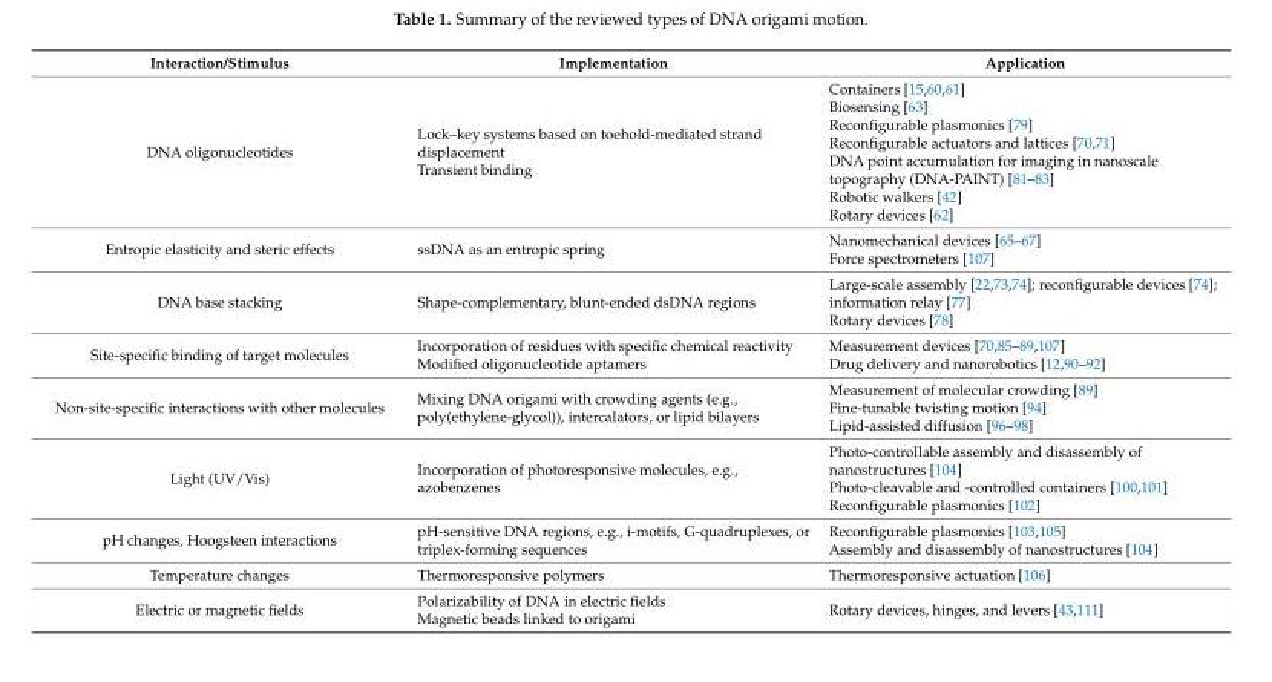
<table><thead><tr><td>Interaction/Stimulus</td><td>Implementation</td><td>Application</td></tr></thead><tbody><tr><td>DNA oligonucleotides</td><td>Lock–key systems based on toehold-mediated strand displacement Transient binding</td><td>Containers [15,60,61] Biosensing [63] Reconfigurable plasmonics [79] Reconfigurable actuators and lattices [70,71] DNA point accumulation for imaging in nanoscale topography (DNA-PAINT) [81–83] Robotic walkers [42] Rotary devices [62]</td></tr><tr><td>Entropic elasticity and steric effects</td><td>ssDNA as an entropic spring</td><td>Nanomechanical devices [65–67] Force spectrometers [107]</td></tr><tr><td>DNA base stacking</td><td>Shape-complementary, blunt-ended dsDNA regions</td><td>Large-scale assembly [22,73,74]; reconfigurable devices [74]; information relay [77] Rotary devices [78]</td></tr><tr><td>Site-specific binding of target molecules</td><td>Incorporation of residues with specific chemical reactivity Modified oligonucleotide aptamers</td><td>Measurement devices [70,85–89,107] Drug delivery and nanorobotics [12,90–92]</td></tr><tr><td>Non-site-specific interactions with other molecules</td><td>Mixing DNA origami with crowding agents (e.g., poly(ethylene-glycol)), intercalators, or lipid bilayers</td><td>Measurement of molecular crowding [89] Fine-tunable twisting motion [94] Lipid-assisted diffusion [96–98]</td></tr><tr><td>Light (UV/Vis)</td><td>Incorporation of photoresponsive molecules, e.g., azobenzenes</td><td>Photo-controllable assembly and disassembly of nanostructures [104] Photo-cleavable and -controlled containers [100,101] Reconfigurable plasmonics [102]</td></tr><tr><td>pH changes, Hoogsteen interactions</td><td>pH-sensitive DNA regions, e.g., i-motifs, G-quadruplexes, or triplex-forming sequences</td><td>Reconfigurable plasmonics [103,105] Assembly and disassembly of nanostructures [104]</td></tr><tr><td>Temperature changes</td><td>Thermoresponsive polymers</td><td>Thermoresponsive actuation [106]</td></tr><tr><td>Electric or magnetic fields</td><td>Polarizability of DNA in electric fields Magnetic beads linked to origami</td><td>Rotary devices, hinges, and levers [43,111]</td></tr></tbody></table>